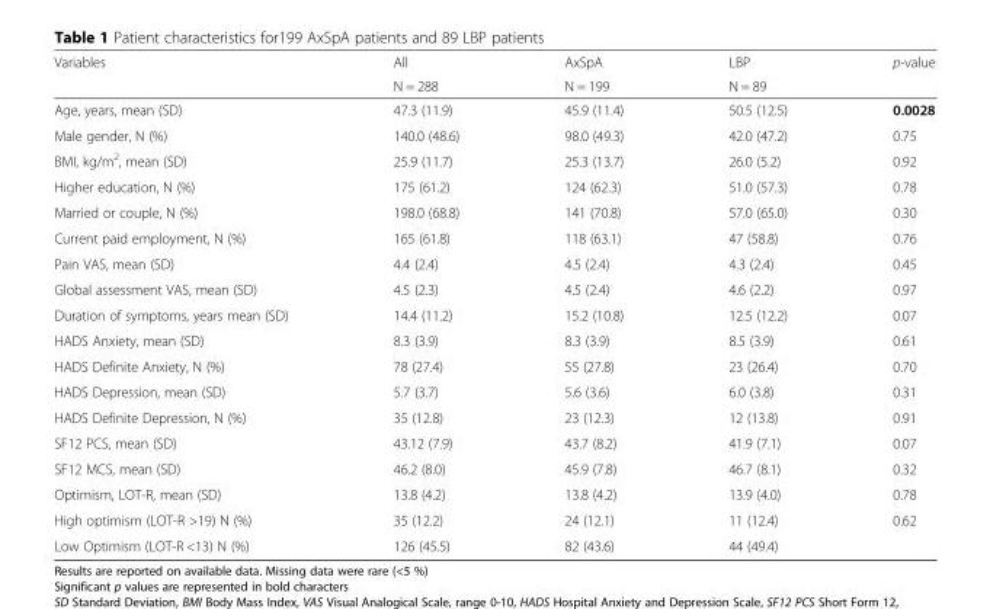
<table><thead><tr><td rowspan="2">Variables</td><td rowspan="2">All N = 288</td><td rowspan="2">AxSpA N = 199</td><td rowspan="2">LBP N = 89</td><td rowspan="2">p-value</td></tr><tr></tr></thead><tbody><tr><td>Age, years, mean (SD)</td><td>47.3 (11.9)</td><td>45.9 (11.4)</td><td>50.5 (12.5)</td><td>0.0028</td></tr><tr><td>Male gender, N (%)</td><td>140.0 (48.6)</td><td>98.0 (49.3)</td><td>42.0 (47.2)</td><td>0.75</td></tr><tr><td>BMI, kg/m<sup>2</sup>, mean (SD)</td><td>25.9 (11.7)</td><td>25.3 (13.7)</td><td>26.0 (5.2)</td><td>0.92</td></tr><tr><td>Higher education, N (%)</td><td>175 (61.2)</td><td>124 (62.3)</td><td>51.0 (57.3)</td><td>0.78</td></tr><tr><td>Married or couple, N (%)</td><td>198.0 (68.8)</td><td>141 (70.8)</td><td>57.0 (65.0)</td><td>0.30</td></tr><tr><td>Current paid employment, N (%)</td><td>165 (61.8)</td><td>118 (63.1)</td><td>47 (58.8)</td><td>0.76</td></tr><tr><td>Pain VAS, mean (SD)</td><td>4.4 (2.4)</td><td>4.5 (2.4)</td><td>4.3 (2.4)</td><td>0.45</td></tr><tr><td>Global assessment VAS, mean (SD)</td><td>4.5 (2.3)</td><td>4.5 (2.4)</td><td>4.6 (2.2)</td><td>0.97</td></tr><tr><td>Duration of symptoms, years mean (SD)</td><td>14.4 (11.2)</td><td>15.2 (10.8)</td><td>12.5 (12.2)</td><td>0.07</td></tr><tr><td>HADS Anxiety, mean (SD)</td><td>8.3 (3.9)</td><td>8.3 (3.9)</td><td>8.5 (3.9)</td><td>0.61</td></tr><tr><td>HADS Definite Anxiety, N (%)</td><td>78 (27.4)</td><td>55 (27.8)</td><td>23 (26.4)</td><td>0.70</td></tr><tr><td>HADS Depression, mean (SD)</td><td>5.7 (3.7)</td><td>5.6 (3.6)</td><td>6.0 (3.8)</td><td>0.31</td></tr><tr><td>HADS Definite Depression, N (%)</td><td>35 (12.8)</td><td>23 (12.3)</td><td>12 (13.8)</td><td>0.91</td></tr><tr><td>SF12 PCS, mean (SD)</td><td>43.12 (7.9)</td><td>43.7 (8.2)</td><td>41.9 (7.1)</td><td>0.07</td></tr><tr><td>SF12 MCS, mean (SD)</td><td>46.2 (8.0)</td><td>45.9 (7.8)</td><td>46.7 (8.1)</td><td>0.32</td></tr><tr><td>Optimism, LOT-R, mean (SD)</td><td>13.8 (4.2)</td><td>13.8 (4.2)</td><td>13.9 (4.0)</td><td>0.78</td></tr><tr><td>High optimism (LOT-R &gt;19) N (%)</td><td>35 (12.2)</td><td>24 (12.1)</td><td>11 (12.4)</td><td rowspan="2">0.62</td></tr><tr><td>Low Optimism (LOT-R &lt;13) N (%)</td><td>126 (45.5)</td><td>82 (43.6)</td><td>44 (49.4)</td></tr></tbody></table>